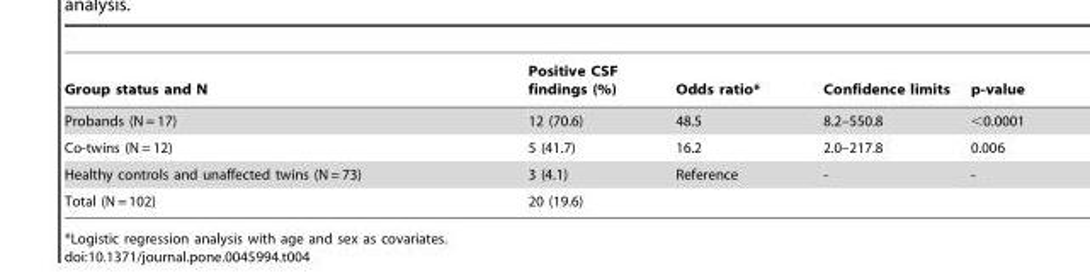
<table><thead><tr><td>Group status and N</td><td>Positive CSF findings (%)</td><td>Odds ratio*</td><td>Confidence limits</td><td>p-value</td></tr></thead><tbody><tr><td>Probands (N = 17)</td><td>12 (70.6)</td><td>48.5</td><td>8.2–550.8</td><td>&lt;0.0001</td></tr><tr><td>Co-twins (N = 12)</td><td>5 (41.7)</td><td>16.2</td><td>2.0–217.8</td><td>0.006</td></tr><tr><td>Healthy controls and unaffected twins (N = 73)</td><td>3 (4.1)</td><td>Reference</td><td>-</td><td>-</td></tr><tr><td>Total (N = 102)</td><td>20 (19.6)</td><td></td><td></td><td></td></tr></tbody></table>